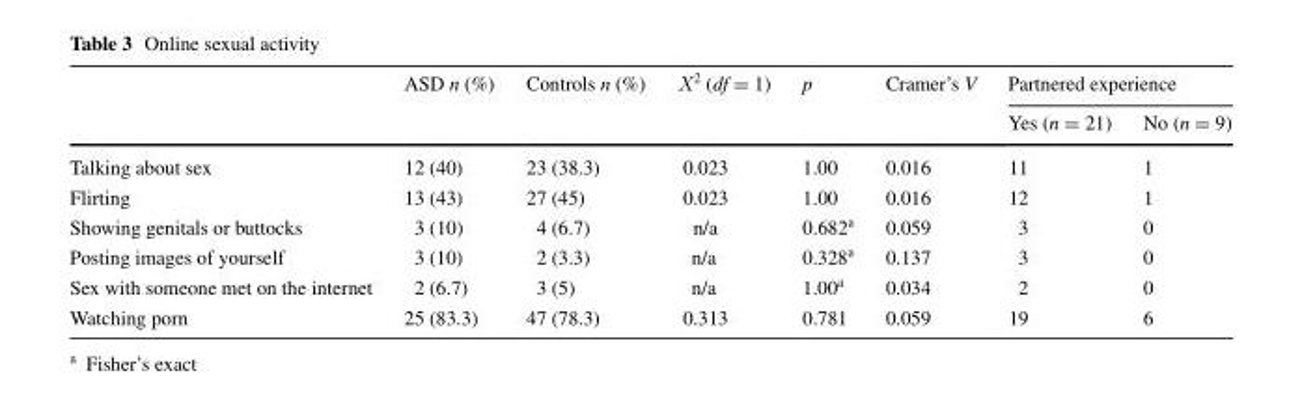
<table><thead><tr><td rowspan="2"></td><td rowspan="2">ASD n (%)</td><td rowspan="2">Controls n (%)</td><td rowspan="2">Χ<sup>2</sup> (df = 1)</td><td rowspan="2">p</td><td rowspan="2">Cramer’s V</td><td colspan="2">Partnered experience</td></tr><tr><td>Yes (n = 21)</td><td>No (n = 9)</td></tr></thead><tbody><tr><td>Talking about sex</td><td>12 (40)</td><td>23 (38.3)</td><td>0.023</td><td>1.00</td><td>0.016</td><td>11</td><td>1</td></tr><tr><td>Flirting</td><td>13 (43)</td><td>27 (45)</td><td>0.023</td><td>1.00</td><td>0.016</td><td>12</td><td>1</td></tr><tr><td>Showing genitals or buttocks</td><td>3 (10)</td><td>4 (6.7)</td><td>n/a</td><td>0.682<sup>a</sup></td><td>0.059</td><td>3</td><td>0</td></tr><tr><td>Posting images of yourself</td><td>3 (10)</td><td>2 (3.3)</td><td>n/a</td><td>0.328<sup>a</sup></td><td>0.137</td><td>3</td><td>0</td></tr><tr><td>Sex with someone met on the internet</td><td>2 (6.7)</td><td>3 (5)</td><td>n/a</td><td>1.00<sup>a</sup></td><td>0.034</td><td>2</td><td>0</td></tr><tr><td>Watching porn</td><td>25 (83.3)</td><td>47 (78.3)</td><td>0.313</td><td>0.781</td><td>0.059</td><td>19</td><td>6</td></tr></tbody></table>